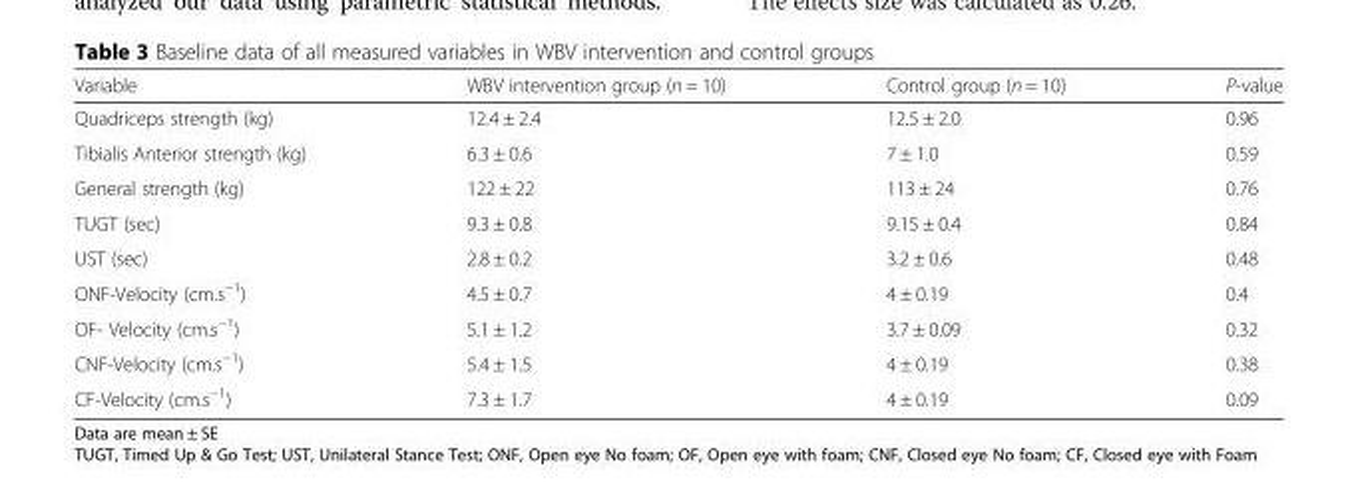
<table><thead><tr><td>Variable</td><td>WBV intervention group (n = 10)</td><td>Control group (n = 10)</td><td>P-value</td></tr></thead><tbody><tr><td>Quadriceps strength (kg)</td><td>12.4 ± 2.4</td><td>12.5 ± 2.0</td><td>0.96</td></tr><tr><td>Tibialis Anterior strength (kg)</td><td>6.3 ± 0.6</td><td>7 ± 1.0</td><td>0.59</td></tr><tr><td>General strength (kg)</td><td>122 ± 22</td><td>113 ± 24</td><td>0.76</td></tr><tr><td>TUGT (sec)</td><td>9.3 ± 0.8</td><td>9.15 ± 0.4</td><td>0.84</td></tr><tr><td>UST (sec)</td><td>2.8 ± 0.2</td><td>3.2 ± 0.6</td><td>0.48</td></tr><tr><td>ONF-Velocity (cm.s<sup>−1</sup>)</td><td>4.5 ± 0.7</td><td>4 ± 0.19</td><td>0.4</td></tr><tr><td>OF- Velocity (cm.s<sup>−1</sup>)</td><td>5.1 ± 1.2</td><td>3.7 ± 0.09</td><td>0.32</td></tr><tr><td>CNF-Velocity (cm.s<sup>−1</sup>)</td><td>5.4 ± 1.5</td><td>4 ± 0.19</td><td>0.38</td></tr><tr><td>CF-Velocity (cm.s<sup>−1</sup>)</td><td>7.3 ± 1.7</td><td>4 ± 0.19</td><td>0.09</td></tr></tbody></table>